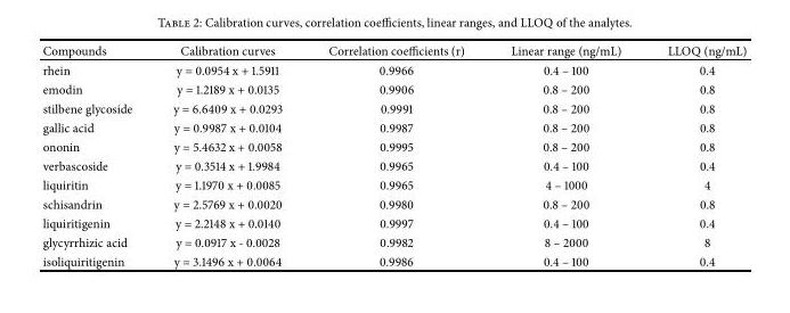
<table><thead><tr><td>Compounds</td><td>Calibration curves</td><td>Correlation coefficients (r)</td><td>Linear range (ng/mL)</td><td>LLOQ (ng/mL)</td></tr></thead><tbody><tr><td>rhein</td><td>y = 0.0954 x + 1.5911</td><td>0.9966</td><td>0.4 – 100</td><td>0.4</td></tr><tr><td>emodin</td><td>y = 1.2189 x + 0.0135</td><td>0.9906</td><td>0.8 – 200</td><td>0.8</td></tr><tr><td>stilbene glycoside</td><td>y = 6.6409 x + 0.0293</td><td>0.9991</td><td>0.8 – 200</td><td>0.8</td></tr><tr><td>gallic acid</td><td>y = 0.9987 x + 0.0104</td><td>0.9987</td><td>0.8 – 200</td><td>0.8</td></tr><tr><td>ononin</td><td>y = 5.4632 x + 0.0058</td><td>0.9995</td><td>0.8 – 200</td><td>0.8</td></tr><tr><td>verbascoside</td><td>y = 0.3514 x + 1.9984</td><td>0.9965</td><td>0.4 – 100</td><td>0.4</td></tr><tr><td>liquiritin</td><td>y = 1.1970 x + 0.0085</td><td>0.9965</td><td>4 – 1000</td><td>4</td></tr><tr><td>schisandrin</td><td>y = 2.5769 x + 0.0020</td><td>0.9980</td><td>0.8 – 200</td><td>0.8</td></tr><tr><td>liquiritigenin</td><td>y = 2.2148 x + 0.0140</td><td>0.9997</td><td>0.4 – 100</td><td>0.4</td></tr><tr><td>glycyrrhizic acid</td><td>y = 0.0917 x - 0.0028</td><td>0.9982</td><td>8 – 2000</td><td>8</td></tr><tr><td>isoliquiritigenin</td><td>y = 3.1496 x + 0.0064</td><td>0.9986</td><td>0.4 – 100</td><td>0.4</td></tr></tbody></table>